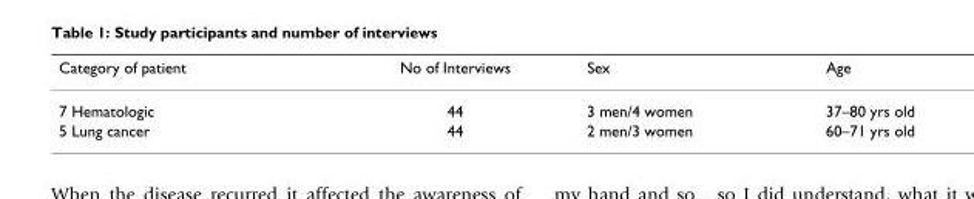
<table><thead><tr><td>Category of patient</td><td>No of Interviews</td><td>Sex</td><td>Age</td></tr></thead><tbody><tr><td>7 Hematologic</td><td>44</td><td>3 men/4 women</td><td>37–80 yrs old</td></tr><tr><td>5 Lung cancer</td><td>44</td><td>2 men/3 women</td><td>60–71 yrs old</td></tr></tbody></table>